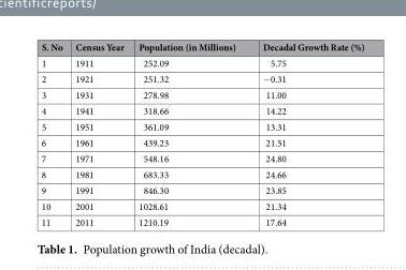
<table><thead><tr><td>S. No</td><td>Census Year</td><td>Population (in Millions)</td><td>Decadal Growth Rate (%)</td></tr></thead><tbody><tr><td>1</td><td>1911</td><td>252.09</td><td>5.75</td></tr><tr><td>2</td><td>1921</td><td>251.32</td><td>−0.31</td></tr><tr><td>3</td><td>1931</td><td>278.98</td><td>11.00</td></tr><tr><td>4</td><td>1941</td><td>318.66</td><td>14.22</td></tr><tr><td>5</td><td>1951</td><td>361.09</td><td>13.31</td></tr><tr><td>6</td><td>1961</td><td>439.23</td><td>21.51</td></tr><tr><td>7</td><td>1971</td><td>548.16</td><td>24.80</td></tr><tr><td>8</td><td>1981</td><td>683.33</td><td>24.66</td></tr><tr><td>9</td><td>1991</td><td>846.30</td><td>23.85</td></tr><tr><td>10</td><td>2001</td><td>1028.61</td><td>21.34</td></tr><tr><td>11</td><td>2011</td><td>1210.19</td><td>17.64</td></tr></tbody></table>